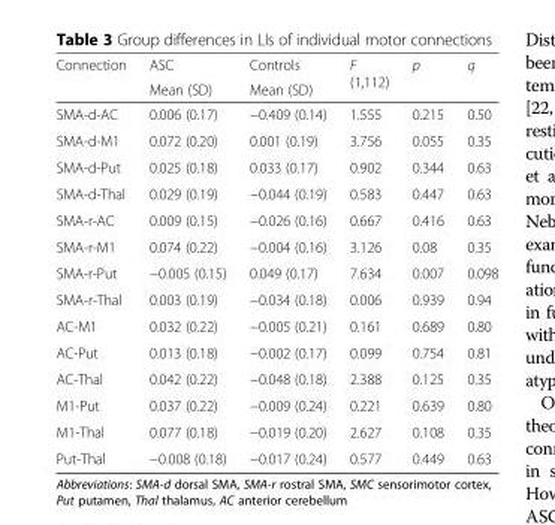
<table><thead><tr><td rowspan="2">Connection</td><td rowspan="2">ASC Mean (SD)</td><td rowspan="2">Controls Mean (SD)</td><td rowspan="2">F (1,112)</td><td rowspan="2">p</td><td rowspan="2">q</td></tr><tr></tr></thead><tbody><tr><td>SMA-d-AC</td><td>0.006 (0.17)</td><td>−0.409 (0.14)</td><td>1.555</td><td>0.215</td><td>0.50</td></tr><tr><td>SMA-d-M1</td><td>0.072 (0.20)</td><td>0.001 (0.19)</td><td>3.756</td><td>0.055</td><td>0.35</td></tr><tr><td>SMA-d-Put</td><td>0.025 (0.18)</td><td>0.033 (0.17)</td><td>0.902</td><td>0.344</td><td>0.63</td></tr><tr><td>SMA-d-Thal</td><td>0.029 (0.19)</td><td>−0.044 (0.19)</td><td>0.583</td><td>0.447</td><td>0.63</td></tr><tr><td>SMA-r-AC</td><td>0.009 (0.15)</td><td>−0.026 (0.16)</td><td>0.667</td><td>0.416</td><td>0.63</td></tr><tr><td>SMA-r-M1</td><td>0.074 (0.22)</td><td>−0.004 (0.16)</td><td>3.126</td><td>0.08</td><td>0.35</td></tr><tr><td>SMA-r-Put</td><td>−0.005 (0.15)</td><td>0.049 (0.17)</td><td>7.634</td><td>0.007</td><td>0.098</td></tr><tr><td>SMA-r-Thal</td><td>0.003 (0.19)</td><td>−0.034 (0.18)</td><td>0.006</td><td>0.939</td><td>0.94</td></tr><tr><td>AC-M1</td><td>0.032 (0.22)</td><td>−0.005 (0.21)</td><td>0.161</td><td>0.689</td><td>0.80</td></tr><tr><td>AC-Put</td><td>0.013 (0.18)</td><td>−0.002 (0.17)</td><td>0.099</td><td>0.754</td><td>0.81</td></tr><tr><td>AC-Thal</td><td>0.042 (0.22)</td><td>−0.048 (0.18)</td><td>2.388</td><td>0.125</td><td>0.35</td></tr><tr><td>M1-Put</td><td>0.037 (0.22)</td><td>−0.009 (0.24)</td><td>0.221</td><td>0.639</td><td>0.80</td></tr><tr><td>M1-Thal</td><td>0.077 (0.18)</td><td>−0.019 (0.20)</td><td>2.627</td><td>0.108</td><td>0.35</td></tr><tr><td>Put-Thal</td><td>−0.008 (0.18)</td><td>−0.017 (0.24)</td><td>0.577</td><td>0.449</td><td>0.63</td></tr></tbody></table>